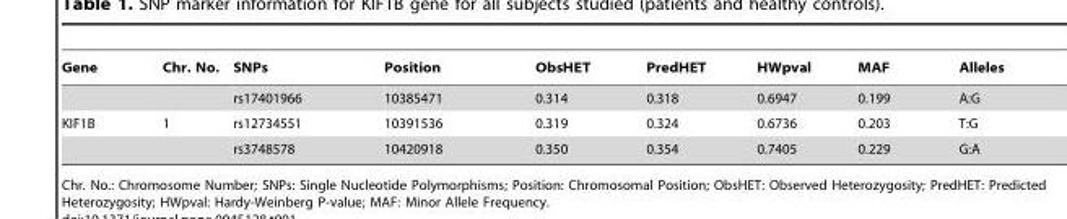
<table><thead><tr><td>Gene</td><td>Chr. No.</td><td>SNPs</td><td>Position</td><td>ObsHET</td><td>PredHET</td><td>HWpval</td><td>MAF</td><td>Alleles</td></tr></thead><tbody><tr><td></td><td></td><td>rs17401966</td><td>10385471</td><td>0.314</td><td>0.318</td><td>0.6947</td><td>0.199</td><td>A:G</td></tr><tr><td rowspan="2">KIF1B</td><td>1</td><td>rs12734551</td><td>10391536</td><td>0.319</td><td>0.324</td><td>0.6736</td><td>0.203</td><td>T:G</td></tr><tr><td></td><td>rs3748578</td><td>10420918</td><td>0.350</td><td>0.354</td><td>0.7405</td><td>0.229</td><td>G:A</td></tr></tbody></table>